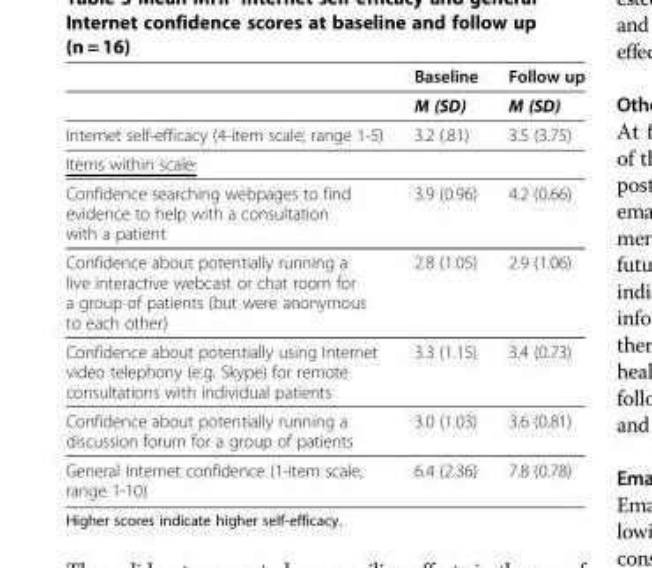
<table><thead><tr><td></td><td>Baseline</td><td>Follow up</td></tr></thead><tbody><tr><td></td><td>M (SD)</td><td>M (SD)</td></tr><tr><td>Internet self-efficacy (4-item scale; range 1-5)</td><td>3.2 (.81)</td><td>3.5 (3.75)</td></tr><tr><td colspan="3">Items within scale:</td></tr><tr><td>Confidence searching webpages to find evidence to help with a consultation with a patient</td><td>3.9 (0.96)</td><td>4.2 (0.66)</td></tr><tr><td>Confidence about potentially running a live interactive webcast or chat room for a group of patients (but were anonymous to each other)</td><td>2.8 (1.05)</td><td>2.9 (1.06)</td></tr><tr><td>Confidence about potentially using Internet video telephony (e.g. Skype) for remote consultations with individual patients</td><td>3.3 (1.15)</td><td>3.4 (0.73)</td></tr><tr><td>Confidence about potentially running a discussion forum for a group of patients</td><td>3.0 (1.03)</td><td>3.6 (0.81)</td></tr><tr><td>General Internet confidence (1-item scale, range 1-10)</td><td>6.4 (2.36)</td><td>7.8 (0.78)</td></tr></tbody></table>